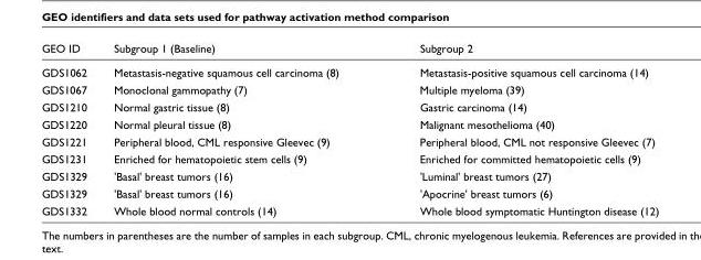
<table><thead><tr><td>GEO ID</td><td>Subgroup 1 (Baseline)</td><td>Subgroup 2</td></tr></thead><tbody><tr><td>GDS1062</td><td>Metastasis-negative squamous cell carcinoma (8)</td><td>Metastasis-positive squamous cell carcinoma (14)</td></tr><tr><td>GDS1067</td><td>Monoclonal gammopathy (7)</td><td>Multiple myeloma (39)</td></tr><tr><td>GDS1210</td><td>Normal gastric tissue (8)</td><td>Gastric carcinoma (14)</td></tr><tr><td>GDS1220</td><td>Normal pleural tissue (8)</td><td>Malignant mesothelioma (40)</td></tr><tr><td>GDS1221</td><td>Peripheral blood, CML responsive Gleevec (9)</td><td>Peripheral blood, CML not responsive Gleevec (7)</td></tr><tr><td>GDS1231</td><td>Enriched for hematopoietic stem cells (9)</td><td>Enriched for committed hematopoietic cells (9)</td></tr><tr><td>GDS1329</td><td>&#x27;Basal&#x27; breast tumors (16)</td><td>&#x27;Luminal&#x27; breast tumors (27)</td></tr><tr><td>GDS1329</td><td>&#x27;Basal&#x27; breast tumors (16)</td><td>&#x27;Apocrine&#x27; breast tumors (6)</td></tr><tr><td>GDS1332</td><td>Whole blood normal controls (14)</td><td>Whole blood symptomatic Huntington disease (12)</td></tr></tbody></table>